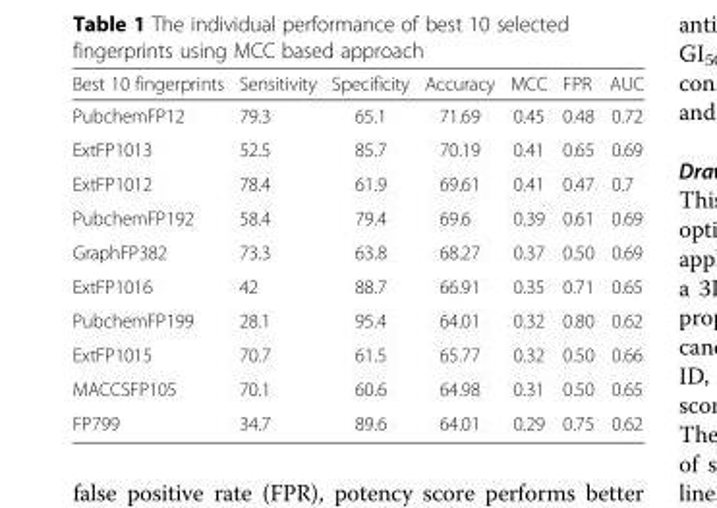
<table><thead><tr><td>Best 10 fingerprints</td><td>Sensitivity</td><td>Specificity</td><td>Accuracy</td><td>MCC</td><td>FPR</td><td>AUC</td></tr></thead><tbody><tr><td>PubchemFP12</td><td>79.3</td><td>65.1</td><td>71.69</td><td>0.45</td><td>0.48</td><td>0.72</td></tr><tr><td>ExtFP1013</td><td>52.5</td><td>85.7</td><td>70.19</td><td>0.41</td><td>0.65</td><td>0.69</td></tr><tr><td>ExtFP1012</td><td>78.4</td><td>61.9</td><td>69.61</td><td>0.41</td><td>0.47</td><td>0.7</td></tr><tr><td>PubchemFP192</td><td>58.4</td><td>79.4</td><td>69.6</td><td>0.39</td><td>0.61</td><td>0.69</td></tr><tr><td>GraphFP382</td><td>73.3</td><td>63.8</td><td>68.27</td><td>0.37</td><td>0.50</td><td>0.69</td></tr><tr><td>ExtFP1016</td><td>42</td><td>88.7</td><td>66.91</td><td>0.35</td><td>0.71</td><td>0.65</td></tr><tr><td>PubchemFP199</td><td>28.1</td><td>95.4</td><td>64.01</td><td>0.32</td><td>0.80</td><td>0.62</td></tr><tr><td>ExtFP1015</td><td>70.7</td><td>61.5</td><td>65.77</td><td>0.32</td><td>0.50</td><td>0.66</td></tr><tr><td>MACCSFP105</td><td>70.1</td><td>60.6</td><td>64.98</td><td>0.31</td><td>0.50</td><td>0.65</td></tr><tr><td>FP799</td><td>34.7</td><td>89.6</td><td>64.01</td><td>0.29</td><td>0.75</td><td>0.62</td></tr></tbody></table>